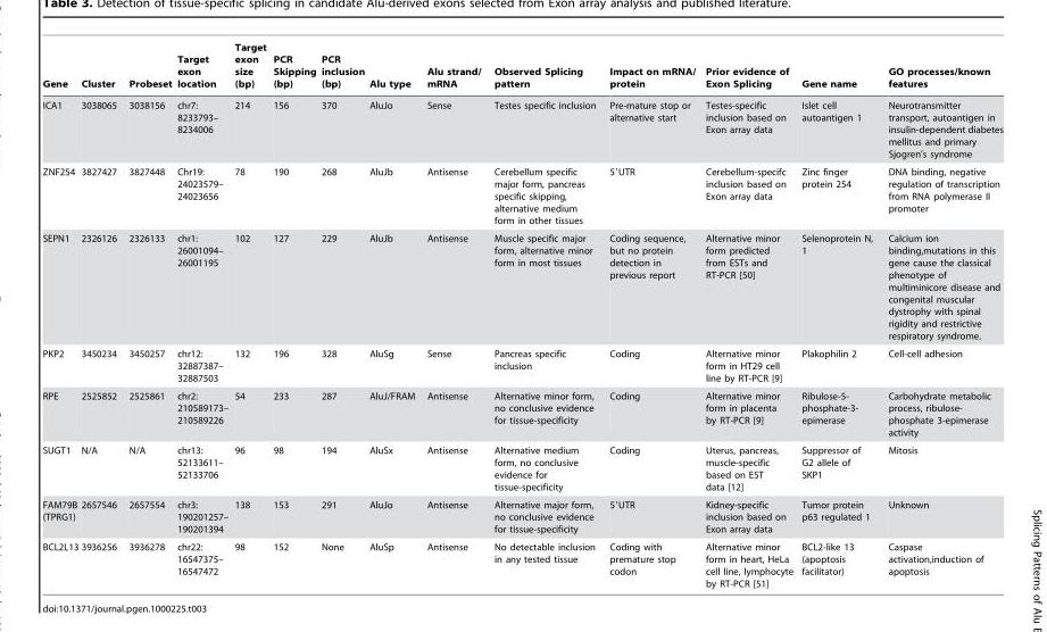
<table><thead><tr><td>Gene</td><td>Cluster</td><td>Probeset</td><td>Target exon location</td><td>Target exon size (bp)</td><td>PCR Skipping (bp)</td><td>PCR inclusion (bp)</td><td>Alu type</td><td>Alu strand/ mRNA</td><td>Observed Splicing pattern</td><td>Impact on mRNA/ protein</td><td>Prior evidence of Exon Splicing</td><td>Gene name</td><td>GO processes/known features</td></tr></thead><tbody><tr><td>ICA1</td><td>3038065</td><td>3038156</td><td>chr7: 8233793– 8234006</td><td>214</td><td>156</td><td>370</td><td>AluJo</td><td>Sense</td><td>Testes specific inclusion</td><td>Pre-mature stop or alternative start</td><td>Testes-specific inclusion based on Exon array data</td><td>Islet cell autoantigen 1</td><td>Neurotransmitter transport, autoantigen in insulin-dependent diabetes mellitus and primary Sjogren’s syndrome</td></tr><tr><td>ZNF254</td><td>3827427</td><td>3827448</td><td>Chr19: 24023579– 24023656</td><td>78</td><td>190</td><td>268</td><td>AluJb</td><td>Antisense</td><td>Cerebellum specific major form, pancreas specific skipping, alternative medium form in other tissues</td><td>5′UTR</td><td>Cerebellum-specifc inclusion based on Exon array data</td><td>Zinc finger protein 254</td><td>DNA binding, negative regulation of transcription from RNA polymerase II promoter</td></tr><tr><td>SEPN1</td><td>2326126</td><td>2326133</td><td>chr1: 26001094– 26001195</td><td>102</td><td>127</td><td>229</td><td>AluJb</td><td>Antisense</td><td>Muscle specific major form, alternative minor form in most tissues</td><td>Coding sequence, but no protein detection in previous report</td><td>Alternative minor form predicted from ESTs and RT-PCR [50]</td><td>Selenoprotein N, 1</td><td>Calcium ion binding,mutations in this gene cause the classical phenotype of multiminicore disease and congenital muscular dystrophy with spinal rigidity and restrictive respiratory syndrome.</td></tr><tr><td>PKP2</td><td>3450234</td><td>3450257</td><td>chr12: 32887387– 32887503</td><td>132</td><td>196</td><td>328</td><td>AluSg</td><td>Sense</td><td>Pancreas specific inclusion</td><td>Coding</td><td>Alternative minor form in HT29 cell line by RT-PCR [9]</td><td>Plakophilin 2</td><td>Cell-cell adhesion</td></tr><tr><td>RPE</td><td>2525852</td><td>2525861</td><td>chr2: 210589173– 210589226</td><td>54</td><td>233</td><td>287</td><td>AluJ/FRAM</td><td>Antisense</td><td>Alternative minor form, no conclusive evidence for tissue-specificity</td><td>Coding</td><td>Alternative minor form in placenta by RT-PCR [9]</td><td>Ribulose-5- phosphate-3- epimerase</td><td>Carbohydrate metabolic process, ribulose- phosphate 3-epimerase activity</td></tr><tr><td>SUGT1</td><td>N/A</td><td>N/A</td><td>chr13: 52133611– 52133706</td><td>96</td><td>98</td><td>194</td><td>AluSx</td><td>Antisense</td><td>Alternative medium form, no conclusive evidence for tissue-specificity</td><td>Coding</td><td>Uterus, pancreas, muscle-specific based on EST data [12]</td><td>Suppressor of G2 allele of SKP1</td><td>Mitosis</td></tr><tr><td>FAM79B (TPRG1)</td><td>2657546</td><td>2657554</td><td>chr3: 190201257– 190201394</td><td>138</td><td>153</td><td>291</td><td>AluJo</td><td>Antisense</td><td>Alternative major form, no conclusive evidence for tissue-specificity</td><td>5′UTR</td><td>Kidney-specific inclusion based on Exon array data</td><td>Tumor protein p63 regulated 1</td><td>Unknown</td></tr><tr><td>BCL2L13</td><td>3936256</td><td>3936278</td><td>chr22: 16547375– 16547472</td><td>98</td><td>152</td><td>None</td><td>AluSp</td><td>Antisense</td><td>No detectable inclusion in any tested tissue</td><td>Coding with premature stop codon</td><td>Alternative minor form in heart, HeLa cell line, lymphocyte by RT-PCR [51]</td><td>BCL2-like 13 (apoptosis facilitator)</td><td>Caspase activation,induction of apoptosis</td></tr></tbody></table>